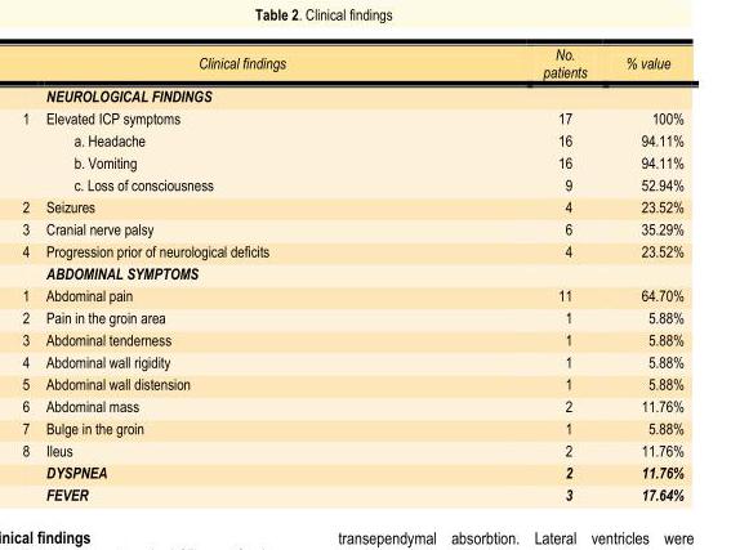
<table><thead><tr><td>Clinical findings</td><td>No. patients</td><td>% value</td></tr></thead><tbody><tr><td colspan="3">NEUROLOGICAL FINDINGS</td></tr><tr><td>Elevated ICP symptoms</td><td>17</td><td>100%</td></tr><tr><td>a. Headache</td><td>16</td><td>94.11%</td></tr><tr><td>b. Vomiting</td><td>16</td><td>94.11%</td></tr><tr><td>c. Loss of consciousness</td><td>9</td><td>52.94%</td></tr><tr><td>Seizures</td><td>4</td><td>23.52%</td></tr><tr><td>Cranial nerve palsy</td><td>6</td><td>35.29%</td></tr><tr><td>Progression prior of neurological deficits</td><td>4</td><td>23.52%</td></tr><tr><td colspan="3">ABDOMINAL SYMPTOMS</td></tr><tr><td>Abdominal pain</td><td>11</td><td>64.70%</td></tr><tr><td>Pain in the groin area</td><td>1</td><td>5.88%</td></tr><tr><td>Abdominal tenderness</td><td>1</td><td>5.88%</td></tr><tr><td>Abdominal wall rigidity</td><td>1</td><td>5.88%</td></tr><tr><td>Abdominal wall distension</td><td>1</td><td>5.88%</td></tr><tr><td>Abdominal mass</td><td>2</td><td>11.76%</td></tr><tr><td>Bulge in the groin</td><td>1</td><td>5.88%</td></tr><tr><td>Ileus</td><td>2</td><td>11.76%</td></tr><tr><td>DYSPNEA</td><td>2</td><td>11.76%</td></tr><tr><td>FEVER</td><td>3</td><td>17.64%</td></tr></tbody></table>